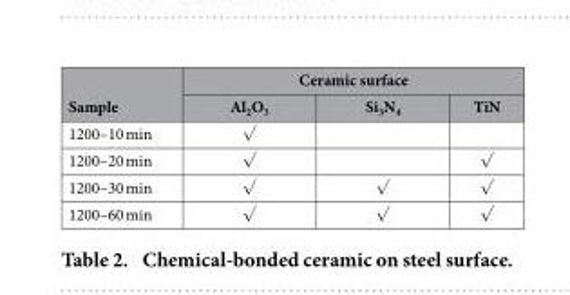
<table><thead><tr><td rowspan="2">Sample</td><td colspan="3">Ceramic surface</td></tr><tr><td>Al<sub>2</sub>O<sub>3</sub></td><td>Si<sub>3</sub>N<sub>4</sub></td><td>TiN</td></tr></thead><tbody><tr><td>1200–10 min</td><td>√</td><td></td><td></td></tr><tr><td>1200–20 min</td><td>√</td><td></td><td>√</td></tr><tr><td>1200–30 min</td><td>√</td><td>√</td><td>√</td></tr><tr><td>1200–60 min</td><td>√</td><td>√</td><td>√</td></tr></tbody></table>